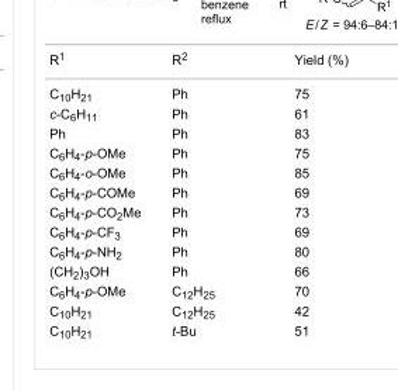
<table><tbody><tr><td>R<sup>1</sup></td><td>R<sup>2</sup></td><td>Yield (%)</td></tr><tr><td>C<sub>10</sub>H<sub>21</sub></td><td>Ph</td><td>75</td></tr><tr><td>c-C<sub>6</sub>H<sub>11</sub></td><td>Ph</td><td>61</td></tr><tr><td>Ph</td><td>Ph</td><td>83</td></tr><tr><td>C<sub>6</sub>H<sub>4</sub>-p-OMe</td><td>Ph</td><td>75</td></tr><tr><td>C<sub>6</sub>H<sub>4</sub>-o-OMe</td><td>Ph</td><td>85</td></tr><tr><td>C<sub>6</sub>H<sub>4</sub>-p-COMe</td><td>Ph</td><td>69</td></tr><tr><td>C<sub>6</sub>H<sub>4</sub>-p-CO<sub>2</sub>Me</td><td>Ph</td><td>73</td></tr><tr><td>C<sub>6</sub>H<sub>4</sub>-p-CF<sub>3</sub></td><td>Ph</td><td>69</td></tr><tr><td>C<sub>6</sub>H<sub>4</sub>-p-NH<sub>2</sub></td><td>Ph</td><td>80</td></tr><tr><td>(CH<sub>2</sub>)<sub>3</sub>OH</td><td>Ph</td><td>66</td></tr><tr><td>C<sub>6</sub>H<sub>4</sub>-p-OMe</td><td>C<sub>12</sub>H<sub>25</sub></td><td>70</td></tr><tr><td>C<sub>10</sub>H<sub>21</sub></td><td>C<sub>12</sub>H<sub>25</sub></td><td>42</td></tr><tr><td>C<sub>10</sub>H<sub>21</sub></td><td>t-Bu</td><td>51</td></tr></tbody></table>